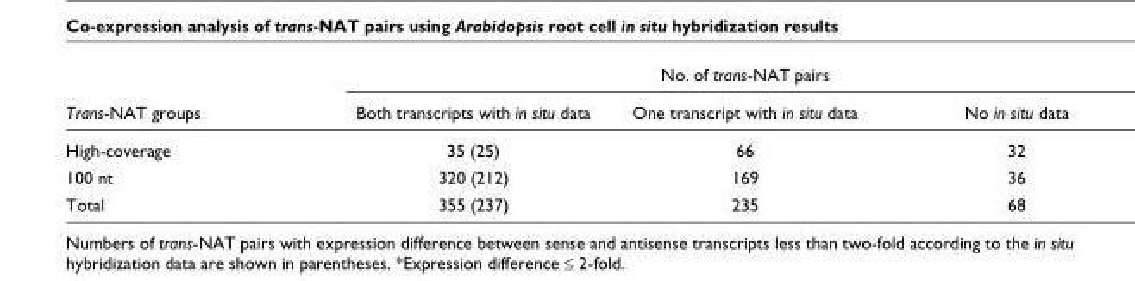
<table><thead><tr><td rowspan="2">Trans-NAT groups</td><td colspan="3">No. of trans-NAT pairs</td></tr><tr><td>Both transcripts with in situ data</td><td>One transcript with in situ data</td><td>No in situ data</td></tr></thead><tbody><tr><td>High-coverage</td><td>35 (25)</td><td>66</td><td>32</td></tr><tr><td>100 nt</td><td>320 (212)</td><td>169</td><td>36</td></tr><tr><td>Total</td><td>355 (237)</td><td>235</td><td>68</td></tr></tbody></table>